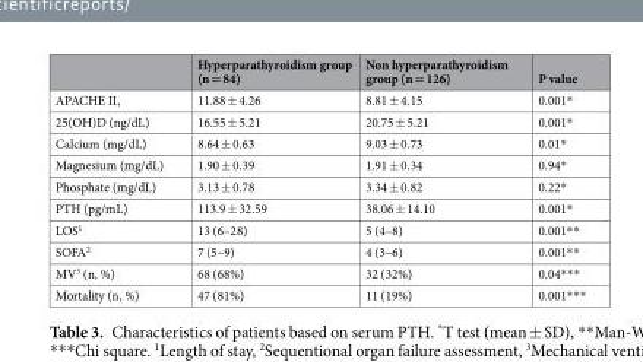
<table><thead><tr><td></td><td>Hyperparathyroidism group (n = 84)</td><td>Non hyperparathyroidism group (n = 126)</td><td>P value</td></tr></thead><tbody><tr><td>APACHE II,</td><td>11.88 ± 4.26</td><td>8.81 ± 4.15</td><td>0.001*</td></tr><tr><td>25(OH)D (ng/dL)</td><td>16.55 ± 5.21</td><td>20.75 ± 5.21</td><td>0.001*</td></tr><tr><td>Calcium (mg/dL)</td><td>8.64 ± 0.63</td><td>9.03 ± 0.73</td><td>0.01*</td></tr><tr><td>Magnesium (mg/dL)</td><td>1.90 ± 0.39</td><td>1.91 ± 0.34</td><td>0.94*</td></tr><tr><td>Phosphate (mg/dL)</td><td>3.13 ± 0.78</td><td>3.34 ± 0.82</td><td>0.22*</td></tr><tr><td>PTH (pg/mL)</td><td>113.9 ± 32.59</td><td>38.06 ± 14.10</td><td>0.001*</td></tr><tr><td>LOS<sup>1</sup></td><td>13 (6–28)</td><td>5 (4–8)</td><td>0.001**</td></tr><tr><td>SOFA<sup>2</sup></td><td>7 (5–9)</td><td>4 (3–6)</td><td>0.001**</td></tr><tr><td>MV<sup>3</sup> (n, %)</td><td>68 (68%)</td><td>32 (32%)</td><td>0.04***</td></tr><tr><td>Mortality (n, %)</td><td>47 (81%)</td><td>11 (19%)</td><td>0.001***</td></tr></tbody></table>